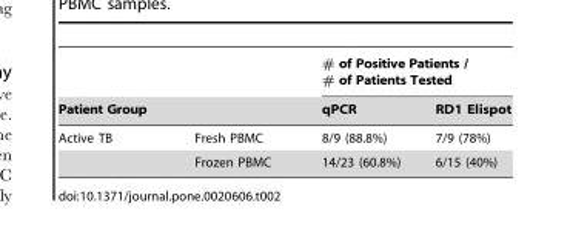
<table><thead><tr><td></td><td></td><td colspan="2"># of Positive Patients / # of Patients Tested</td></tr><tr><td colspan="2">Patient Group</td><td>qPCR</td><td>RD1 Elispot</td></tr></thead><tbody><tr><td rowspan="2">Active TB</td><td>Fresh PBMC</td><td>8/9 (88.8%)</td><td>7/9 (78%)</td></tr><tr><td>Frozen PBMC</td><td>14/23 (60.8%)</td><td>6/15 (40%)</td></tr></tbody></table>